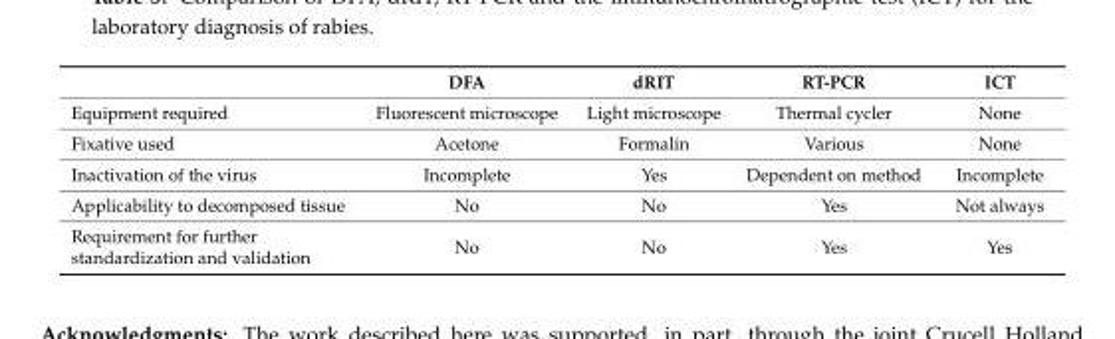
<table><thead><tr><td></td><td>DFA</td><td>dRIT</td><td>RT-PCR</td><td>ICT</td></tr></thead><tbody><tr><td>Equipment required</td><td>Fluorescent microscope</td><td>Light microscope</td><td>Thermal cycler</td><td>None</td></tr><tr><td>Fixative used</td><td>Acetone</td><td>Formalin</td><td>Various</td><td>None</td></tr><tr><td>Inactivation of the virus</td><td>Incomplete</td><td>Yes</td><td>Dependent on method</td><td>Incomplete</td></tr><tr><td>Applicability to decomposed tissue</td><td>No</td><td>No</td><td>Yes</td><td>Not always</td></tr><tr><td>Requirement for further standardization and validation</td><td>No</td><td>No</td><td>Yes</td><td>Yes</td></tr></tbody></table>